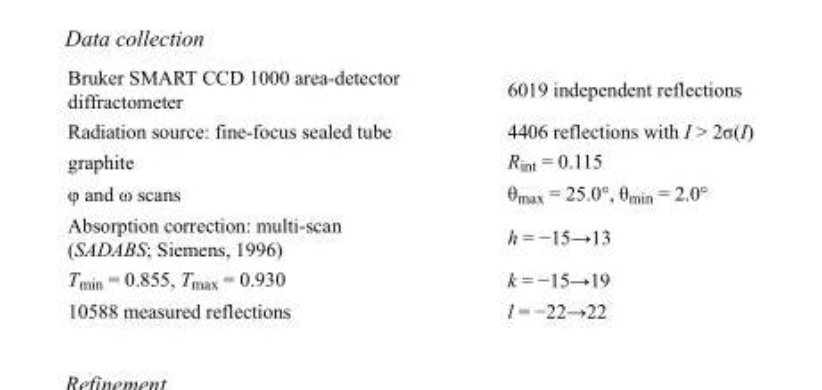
<table><tbody><tr><td>Bruker SMART CCD 1000 area-detector diffractometer</td><td>6019 independent reflections</td></tr><tr><td>Radiation source: fine-focus sealed tube</td><td>4406 reflections with I &gt; 2σ(I)</td></tr><tr><td>graphite</td><td>R<sub>int</sub> = 0.115</td></tr><tr><td>φ and ω scans</td><td>θ<sub>max</sub> = 25.0°, θ<sub>min</sub> = 2.0°</td></tr><tr><td>Absorption correction: multi-scan (SADABS; Siemens, 1996)</td><td>h = −15→13</td></tr><tr><td>T<sub>min</sub> = 0.855, T<sub>max</sub> = 0.930</td><td>k = −15→19</td></tr><tr><td>10588 measured reflections</td><td>l = −22→22</td></tr></tbody></table>